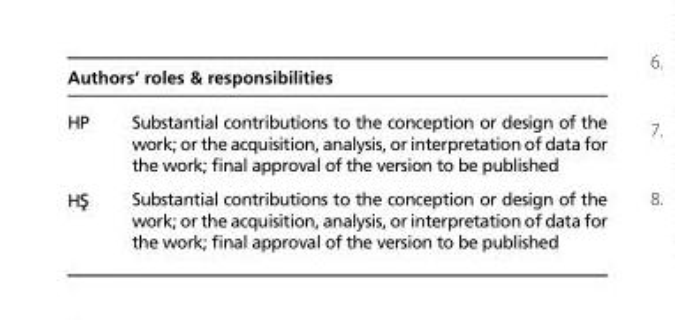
<table><thead><tr><td colspan="2">Authors’ roles &amp; responsibilities</td></tr><tr><td>HP</td><td>Substantial contributions to the conception or design of the work; or the acquisition, analysis, or interpretation of data for the work; final approval of the version to be published</td></tr></thead><tbody><tr><td>H Ş</td><td>Substantial contributions to the conception or design of the work; or the acquisition, analysis, or interpretation of data for the work; final approval of the version to be published</td></tr></tbody></table>